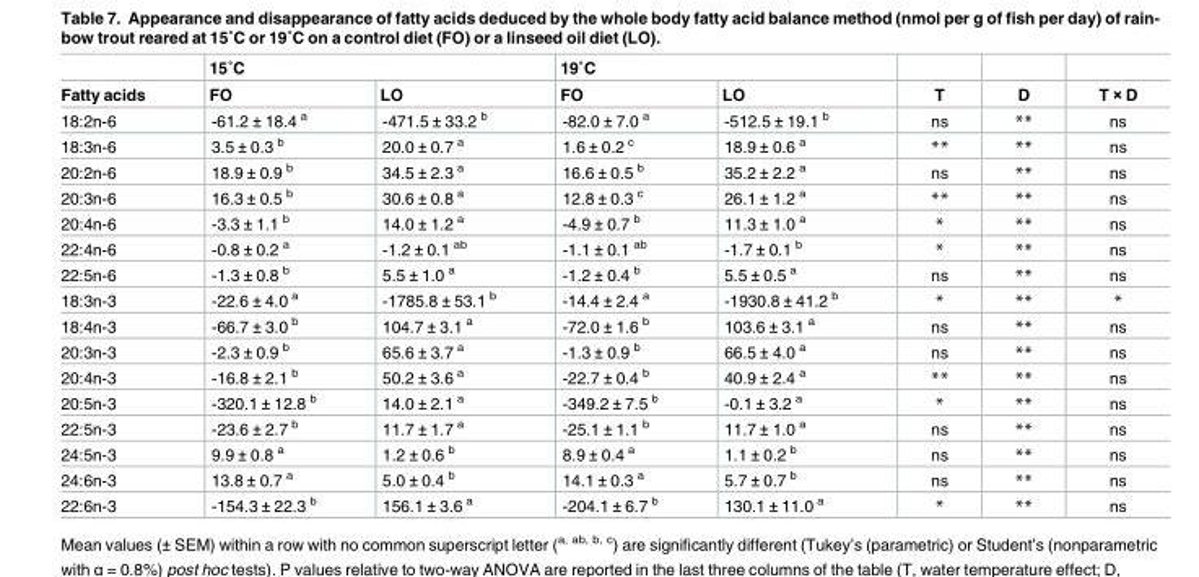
<table><thead><tr><td rowspan="2">Fatty acids</td><td colspan="2">15˚C</td><td colspan="2">19˚C</td><td rowspan="2">T</td><td rowspan="2">D</td><td rowspan="2">T × D</td></tr><tr><td>FO</td><td>LO</td><td>FO</td><td>LO</td></tr></thead><tbody><tr><td>18:2n-6</td><td>-61.2 ± 18.4 <sup>a</sup></td><td>-471.5 ± 33.2 <sup>b</sup></td><td>-82.0 ± 7.0 <sup>a</sup></td><td>-512.5 ± 19.1 <sup>b</sup></td><td>ns</td><td>**</td><td>ns</td></tr><tr><td>18:3n-6</td><td>3.5 ± 0.3 <sup>b</sup></td><td>20.0 ± 0.7 <sup>a</sup></td><td>1.6 ± 0.2 <sup>c</sup></td><td>18.9 ± 0.6 <sup>a</sup></td><td>**</td><td>**</td><td>ns</td></tr><tr><td>20:2n-6</td><td>18.9 ± 0.9 <sup>b</sup></td><td>34.5 ± 2.3 <sup>a</sup></td><td>16.6 ± 0.5 <sup>b</sup></td><td>35.2 ± 2.2 <sup>a</sup></td><td>ns</td><td>**</td><td>ns</td></tr><tr><td>20:3n-6</td><td>16.3 ± 0.5 <sup>b</sup></td><td>30.6 ± 0.8 <sup>a</sup></td><td>12.8 ± 0.3 <sup>c</sup></td><td>26.1 ± 1.2 <sup>a</sup></td><td>**</td><td>**</td><td>ns</td></tr><tr><td>20:4n-6</td><td>-3.3 ± 1.1 <sup>b</sup></td><td>14.0 ± 1.2 <sup>a</sup></td><td>-4.9 ± 0.7 <sup>b</sup></td><td>11.3 ± 1.0 <sup>a</sup></td><td>*</td><td>**</td><td>ns</td></tr><tr><td>22:4n-6</td><td>-0.8 ± 0.2 <sup>a</sup></td><td>-1.2 ± 0.1 <sup>ab</sup></td><td>-1.1 ± 0.1 <sup>ab</sup></td><td>-1.7 ± 0.1 <sup>b</sup></td><td>*</td><td>**</td><td>ns</td></tr><tr><td>22:5n-6</td><td>-1.3 ± 0.8 <sup>b</sup></td><td>5.5 ± 1.0 <sup>a</sup></td><td>-1.2 ± 0.4 <sup>b</sup></td><td>5.5 ± 0.5 <sup>a</sup></td><td>ns</td><td>**</td><td>ns</td></tr><tr><td>18:3n-3</td><td>-22.6 ± 4.0 <sup>a</sup></td><td>-1785.8 ± 53.1 <sup>b</sup></td><td>-14.4 ± 2.4 <sup>a</sup></td><td>-1930.8 ± 41.2 <sup>b</sup></td><td>*</td><td>**</td><td>*</td></tr><tr><td>18:4n-3</td><td>-66.7 ± 3.0 <sup>b</sup></td><td>104.7 ± 3.1 <sup>a</sup></td><td>-72.0 ± 1.6 <sup>b</sup></td><td>103.6 ± 3.1 <sup>a</sup></td><td>ns</td><td>**</td><td>ns</td></tr><tr><td>20:3n-3</td><td>-2.3 ± 0.9 <sup>b</sup></td><td>65.6 ± 3.7 <sup>a</sup></td><td>-1.3 ± 0.9 <sup>b</sup></td><td>66.5 ± 4.0 <sup>a</sup></td><td>ns</td><td>**</td><td>ns</td></tr><tr><td>20:4n-3</td><td>-16.8 ± 2.1 <sup>b</sup></td><td>50.2 ± 3.6 <sup>a</sup></td><td>-22.7 ± 0.4 <sup>b</sup></td><td>40.9 ± 2.4 <sup>a</sup></td><td>**</td><td>**</td><td>ns</td></tr><tr><td>20:5n-3</td><td>-320.1 ± 12.8 <sup>b</sup></td><td>14.0 ± 2.1 <sup>a</sup></td><td>-349.2 ± 7.5 <sup>b</sup></td><td>-0.1 ± 3.2 <sup>a</sup></td><td>*</td><td>**</td><td>ns</td></tr><tr><td>22:5n-3</td><td>-23.6 ± 2.7 <sup>b</sup></td><td>11.7 ± 1.7 <sup>a</sup></td><td>-25.1 ± 1.1 <sup>b</sup></td><td>11.7 ± 1.0 <sup>a</sup></td><td>ns</td><td>**</td><td>ns</td></tr><tr><td>24:5n-3</td><td>9.9 ± 0.8 <sup>a</sup></td><td>1.2 ± 0.6 <sup>b</sup></td><td>8.9 ± 0.4 <sup>a</sup></td><td>1.1 ± 0.2 <sup>b</sup></td><td>ns</td><td>**</td><td>ns</td></tr><tr><td>24:6n-3</td><td>13.8 ± 0.7 <sup>a</sup></td><td>5.0 ± 0.4 <sup>b</sup></td><td>14.1 ± 0.3 <sup>a</sup></td><td>5.7 ± 0.7 <sup>b</sup></td><td>ns</td><td>**</td><td>ns</td></tr><tr><td>22:6n-3</td><td>-154.3 ± 22.3 <sup>b</sup></td><td>156.1 ± 3.6 <sup>a</sup></td><td>-204.1 ± 6.7 <sup>b</sup></td><td>130.1 ± 11.0 <sup>a</sup></td><td>*</td><td>**</td><td>ns</td></tr></tbody></table>